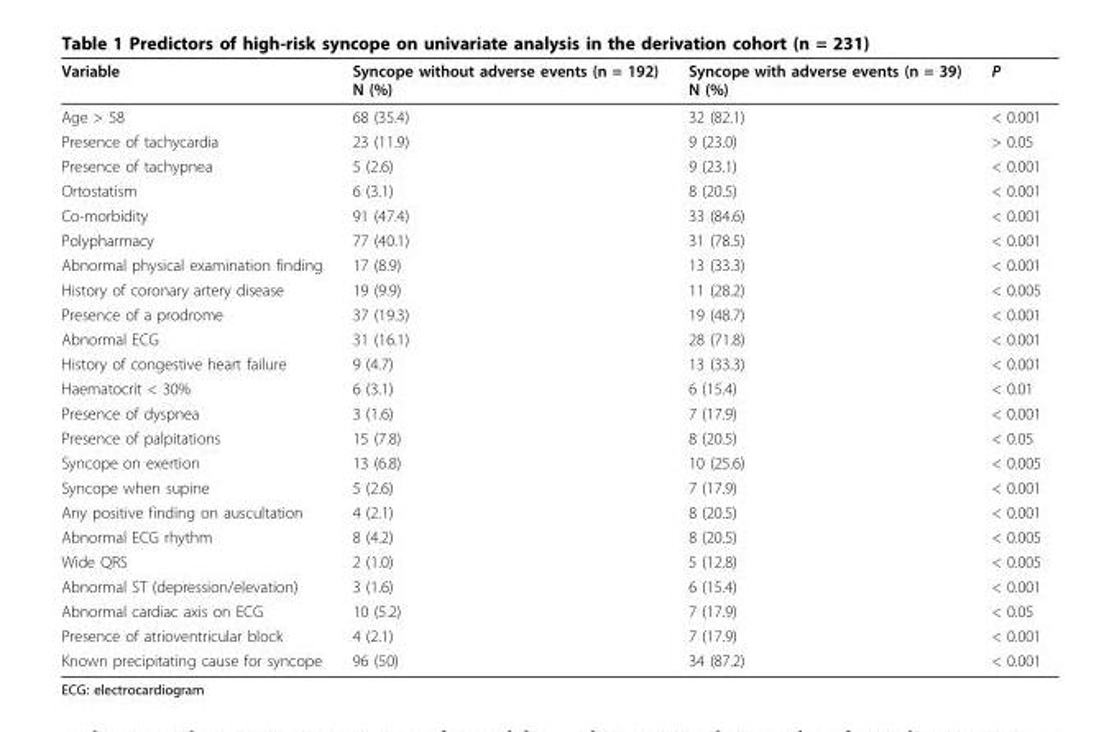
<table><thead><tr><td>Variable</td><td>Syncope without adverse events (n = 192) N (%)</td><td>Syncope with adverse events (n = 39) N (%)</td><td>P</td></tr></thead><tbody><tr><td>Age &gt; 58</td><td>68 (35.4)</td><td>32 (82.1)</td><td>&lt; 0.001</td></tr><tr><td>Presence of tachycardia</td><td>23 (11.9)</td><td>9 (23.0)</td><td>&gt; 0.05</td></tr><tr><td>Presence of tachypnea</td><td>5 (2.6)</td><td>9 (23.1)</td><td>&lt; 0.001</td></tr><tr><td>Ortostatism</td><td>6 (3.1)</td><td>8 (20.5)</td><td>&lt; 0.001</td></tr><tr><td>Co-morbidity</td><td>91 (47.4)</td><td>33 (84.6)</td><td>&lt; 0.001</td></tr><tr><td>Polypharmacy</td><td>77 (40.1)</td><td>31 (78.5)</td><td>&lt; 0.001</td></tr><tr><td>Abnormal physical examination finding</td><td>17 (8.9)</td><td>13 (33.3)</td><td>&lt; 0.001</td></tr><tr><td>History of coronary artery disease</td><td>19 (9.9)</td><td>11 (28.2)</td><td>&lt; 0.005</td></tr><tr><td>Presence of a prodrome</td><td>37 (19.3)</td><td>19 (48.7)</td><td>&lt; 0.001</td></tr><tr><td>Abnormal ECG</td><td>31 (16.1)</td><td>28 (71.8)</td><td>&lt; 0.001</td></tr><tr><td>History of congestive heart failure</td><td>9 (4.7)</td><td>13 (33.3)</td><td>&lt; 0.001</td></tr><tr><td>Haematocrit &lt; 30%</td><td>6 (3.1)</td><td>6 (15.4)</td><td>&lt; 0.01</td></tr><tr><td>Presence of dyspnea</td><td>3 (1.6)</td><td>7 (17.9)</td><td>&lt; 0.001</td></tr><tr><td>Presence of palpitations</td><td>15 (7.8)</td><td>8 (20.5)</td><td>&lt; 0.05</td></tr><tr><td>Syncope on exertion</td><td>13 (6.8)</td><td>10 (25.6)</td><td>&lt; 0.005</td></tr><tr><td>Syncope when supine</td><td>5 (2.6)</td><td>7 (17.9)</td><td>&lt; 0.001</td></tr><tr><td>Any positive finding on auscultation</td><td>4 (2.1)</td><td>8 (20.5)</td><td>&lt; 0.001</td></tr><tr><td>Abnormal ECG rhythm</td><td>8 (4.2)</td><td>8 (20.5)</td><td>&lt; 0.005</td></tr><tr><td>Wide QRS</td><td>2 (1.0)</td><td>5 (12.8)</td><td>&lt; 0.005</td></tr><tr><td>Abnormal ST (depression/elevation)</td><td>3 (1.6)</td><td>6 (15.4)</td><td>&lt; 0.001</td></tr><tr><td>Abnormal cardiac axis on ECG</td><td>10 (5.2)</td><td>7 (17.9)</td><td>&lt; 0.05</td></tr><tr><td>Presence of atrioventricular block</td><td>4 (2.1)</td><td>7 (17.9)</td><td>&lt; 0.001</td></tr><tr><td>Known precipitating cause for syncope</td><td>96 (50)</td><td>34 (87.2)</td><td>&lt; 0.001</td></tr></tbody></table>